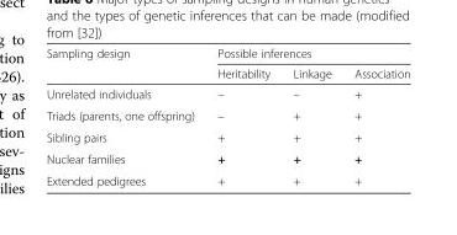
<table><thead><tr><td rowspan="2">Sampling design</td><td colspan="3">Possible inferences</td></tr><tr><td>Heritability</td><td>Linkage</td><td>Association</td></tr></thead><tbody><tr><td>Unrelated individuals</td><td>–</td><td>–</td><td>+</td></tr><tr><td>Triads (parents, one offspring)</td><td>–</td><td>+</td><td>+</td></tr><tr><td>Sibling pairs</td><td>+</td><td>+</td><td>+</td></tr><tr><td>Nuclear families</td><td>+</td><td>+</td><td>+</td></tr><tr><td>Extended pedigrees</td><td>+</td><td>+</td><td>+</td></tr></tbody></table>